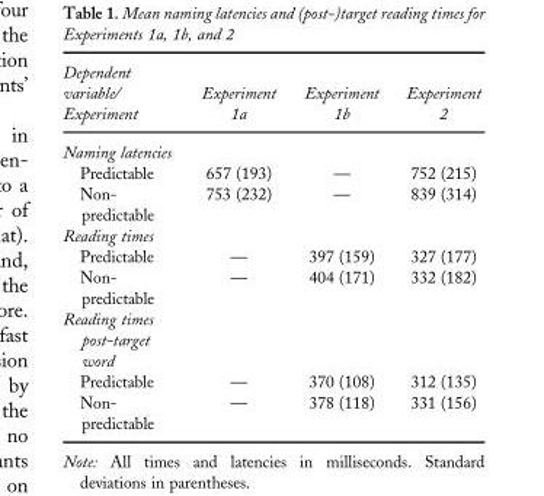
<table><thead><tr><td>Dependent variable/ Experiment</td><td>Experiment 1a</td><td>Experiment 1b</td><td>Experiment 2</td></tr></thead><tbody><tr><td colspan="4">Naming latencies</td></tr><tr><td>Predictable</td><td>657 (193)</td><td>—</td><td>752 (215)</td></tr><tr><td>Non- predictable</td><td>753 (232)</td><td>—</td><td>839 (314)</td></tr><tr><td colspan="4">Reading times</td></tr><tr><td>Predictable</td><td>—</td><td>397 (159)</td><td>327 (177)</td></tr><tr><td>Non- predictable</td><td>—</td><td>404 (171)</td><td>332 (182)</td></tr><tr><td colspan="4">Reading times post-target word</td></tr><tr><td>Predictable</td><td>—</td><td>370 (108)</td><td>312 (135)</td></tr><tr><td>Non- predictable</td><td>—</td><td>378 (118)</td><td>331 (156)</td></tr></tbody></table>